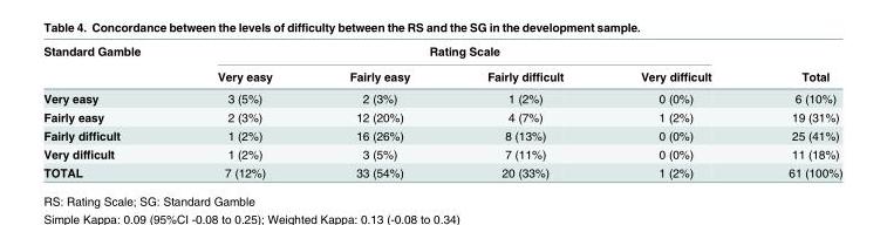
<table><thead><tr><td rowspan="2">Standard Gamble</td><td colspan="4">Rating Scale</td><td rowspan="2">Total</td></tr><tr><td>Very easy</td><td>Fairly easy</td><td>Fairly difficult</td><td>Very difficult</td></tr></thead><tbody><tr><td>Very easy</td><td>3 (5%)</td><td>2 (3%)</td><td>1 (2%)</td><td>0 (0%)</td><td>6 (10%)</td></tr><tr><td>Fairly easy</td><td>2 (3%)</td><td>12 (20%)</td><td>4 (7%)</td><td>1 (2%)</td><td>19 (31%)</td></tr><tr><td>Fairly difficult</td><td>1 (2%)</td><td>16 (26%)</td><td>8 (13%)</td><td>0 (0%)</td><td>25 (41%)</td></tr><tr><td>Very difficult</td><td>1 (2%)</td><td>3 (5%)</td><td>7 (11%)</td><td>0 (0%)</td><td>11 (18%)</td></tr><tr><td>TOTAL</td><td>7 (12%)</td><td>33 (54%)</td><td>20 (33%)</td><td>1 (2%)</td><td>61 (100%)</td></tr></tbody></table>